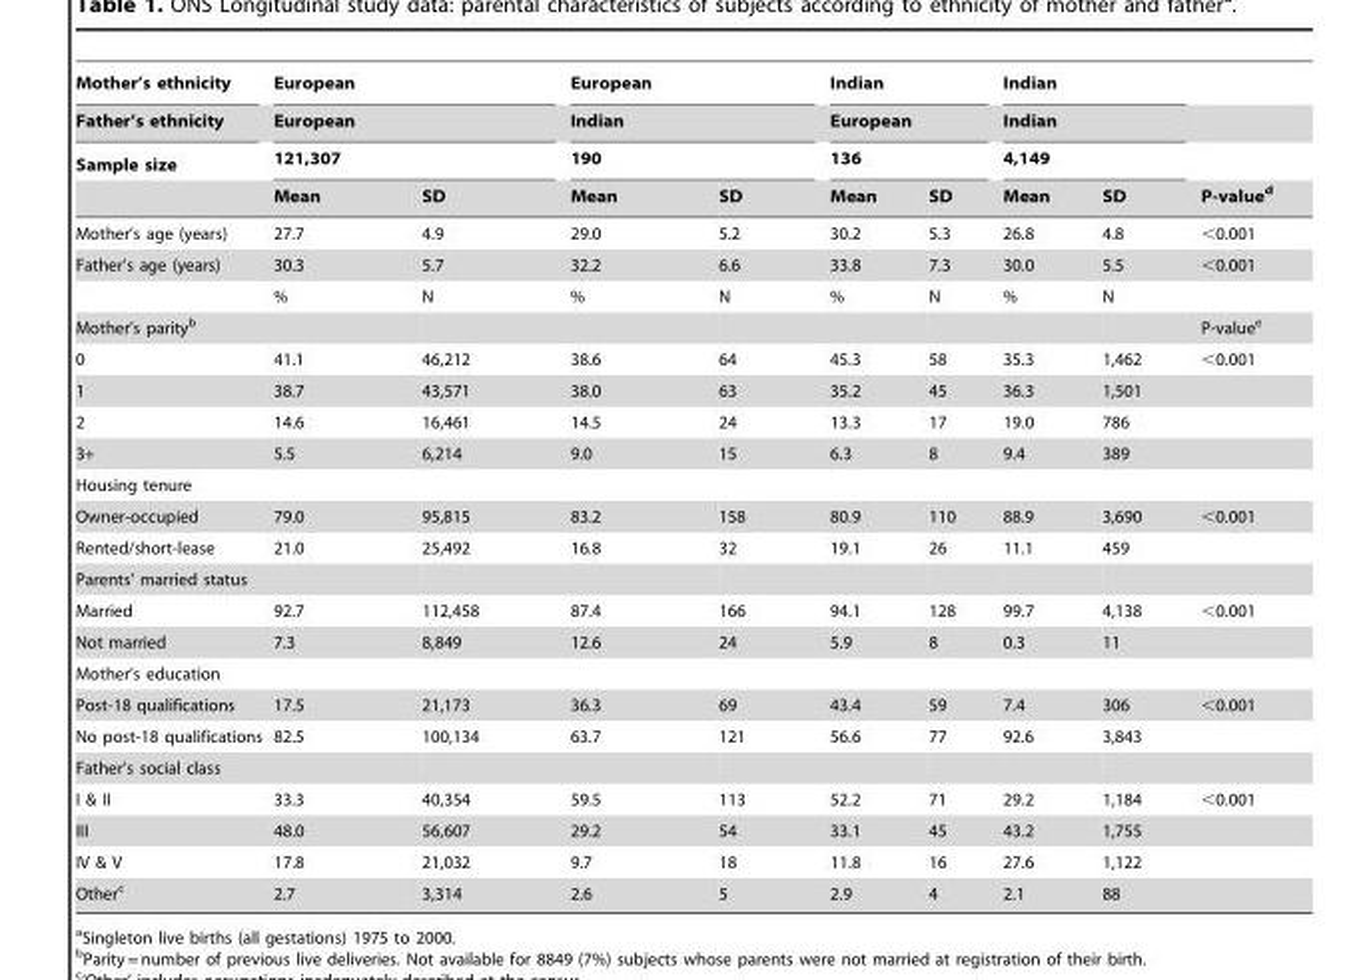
<table><thead><tr><td rowspan="4">Mother’s ethnicity Father’s ethnicity Sample size</td><td rowspan="3" colspan="2">European European 121,307</td><td rowspan="3" colspan="2">European Indian 190</td><td rowspan="3" colspan="2">Indian European 136</td><td rowspan="3" colspan="2">Indian Indian 4,149</td><td rowspan="4">P-value<sup>d</sup></td></tr><tr></tr><tr></tr><tr><td>Mean</td><td>SD</td><td>Mean</td><td>SD</td><td>Mean</td><td>SD</td><td>Mean</td><td>SD</td></tr></thead><tbody><tr><td>Mother’s age (years)</td><td>27.7</td><td>4.9</td><td>29.0</td><td>5.2</td><td>30.2</td><td>5.3</td><td>26.8</td><td>4.8</td><td>&lt;0.001</td></tr><tr><td rowspan="2">Father’s age (years)</td><td>30.3</td><td>5.7</td><td>32.2</td><td>6.6</td><td>33.8</td><td>7.3</td><td>30.0</td><td>5.5</td><td>&lt;0.001</td></tr><tr><td>%</td><td>N</td><td>%</td><td>N</td><td>%</td><td>N</td><td>%</td><td>N</td><td></td></tr><tr><td>Mother’s parity<sup>b</sup></td><td></td><td></td><td></td><td></td><td></td><td></td><td></td><td></td><td>P-value<sup>e</sup></td></tr><tr><td>0</td><td>41.1</td><td>46,212</td><td>38.6</td><td>64</td><td>45.3</td><td>58</td><td>35.3</td><td>1,462</td><td>&lt;0.001</td></tr><tr><td>1</td><td>38.7</td><td>43,571</td><td>38.0</td><td>63</td><td>35.2</td><td>45</td><td>36.3</td><td>1,501</td><td></td></tr><tr><td>2</td><td>14.6</td><td>16,461</td><td>14.5</td><td>24</td><td>13.3</td><td>17</td><td>19.0</td><td>786</td><td></td></tr><tr><td>3+</td><td>5.5</td><td>6,214</td><td>9.0</td><td>15</td><td>6.3</td><td>8</td><td>9.4</td><td>389</td><td></td></tr><tr><td colspan="10">Housing tenure</td></tr><tr><td>Owner-occupied</td><td>79.0</td><td>95,815</td><td>83.2</td><td>158</td><td>80.9</td><td>110</td><td>88.9</td><td>3,690</td><td>&lt;0.001</td></tr><tr><td>Rented/short-lease</td><td>21.0</td><td>25,492</td><td>16.8</td><td>32</td><td>19.1</td><td>26</td><td>11.1</td><td>459</td><td></td></tr><tr><td colspan="10">Parents’ married status</td></tr><tr><td>Married</td><td>92.7</td><td>112,458</td><td>87.4</td><td>166</td><td>94.1</td><td>128</td><td>99.7</td><td>4,138</td><td>&lt;0.001</td></tr><tr><td>Not married</td><td>7.3</td><td>8,849</td><td>12.6</td><td>24</td><td>5.9</td><td>8</td><td>0.3</td><td>11</td><td></td></tr><tr><td colspan="10">Mother’s education</td></tr><tr><td>Post-18 qualifications</td><td>17.5</td><td>21,173</td><td>36.3</td><td>69</td><td>43.4</td><td>59</td><td>7.4</td><td>306</td><td>&lt;0.001</td></tr><tr><td>No post-18 qualifications</td><td>82.5</td><td>100,134</td><td>63.7</td><td>121</td><td>56.6</td><td>77</td><td>92.6</td><td>3,843</td><td></td></tr><tr><td colspan="10">Father’s social class</td></tr><tr><td>I &amp; II</td><td>33.3</td><td>40,354</td><td>59.5</td><td>113</td><td>52.2</td><td>71</td><td>29.2</td><td>1,184</td><td>&lt;0.001</td></tr><tr><td>III</td><td>48.0</td><td>56,607</td><td>29.2</td><td>54</td><td>33.1</td><td>45</td><td>43.2</td><td>1,755</td><td></td></tr><tr><td>IV &amp; V</td><td>17.8</td><td>21,032</td><td>9.7</td><td>18</td><td>11.8</td><td>16</td><td>27.6</td><td>1,122</td><td></td></tr><tr><td>Other<sup>c</sup></td><td>2.7</td><td>3,314</td><td>2.6</td><td>5</td><td>2.9</td><td>4</td><td>2.1</td><td>88</td><td></td></tr></tbody></table>